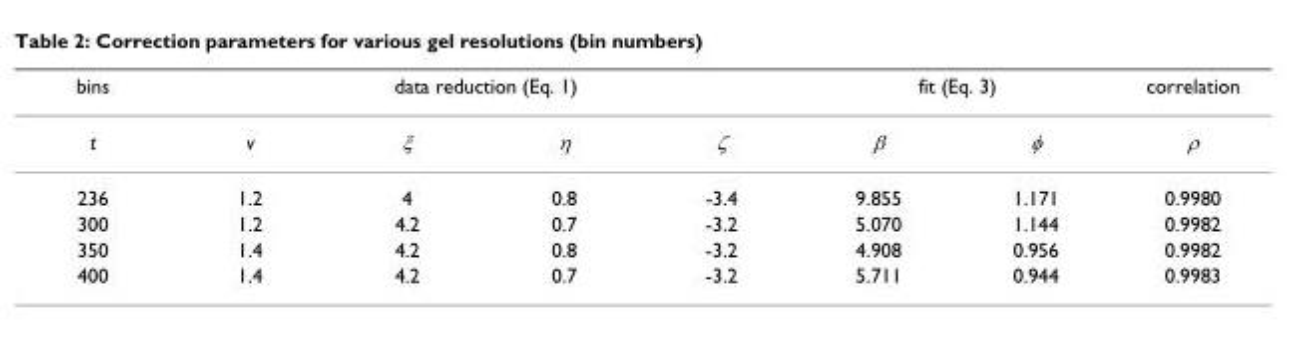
<table><thead><tr><td rowspan="2">bins t</td><td colspan="4">data reduction (Eq. 1)</td><td colspan="2">fit (Eq. 3)</td><td rowspan="2">correlation ρ</td></tr><tr><td>v</td><td>ξ</td><td>η</td><td>ζ</td><td>β</td><td>φ</td></tr></thead><tbody><tr><td>236</td><td>1.2</td><td>4</td><td>0.8</td><td>-3.4</td><td>9.855</td><td>1.171</td><td>0.9980</td></tr><tr><td>300</td><td>1.2</td><td>4.2</td><td>0.7</td><td>-3.2</td><td>5.070</td><td>1.144</td><td>0.9982</td></tr><tr><td>350</td><td>1.4</td><td>4.2</td><td>0.8</td><td>-3.2</td><td>4.908</td><td>0.956</td><td>0.9982</td></tr><tr><td>400</td><td>1.4</td><td>4.2</td><td>0.7</td><td>-3.2</td><td>5.711</td><td>0.944</td><td>0.9983</td></tr></tbody></table>